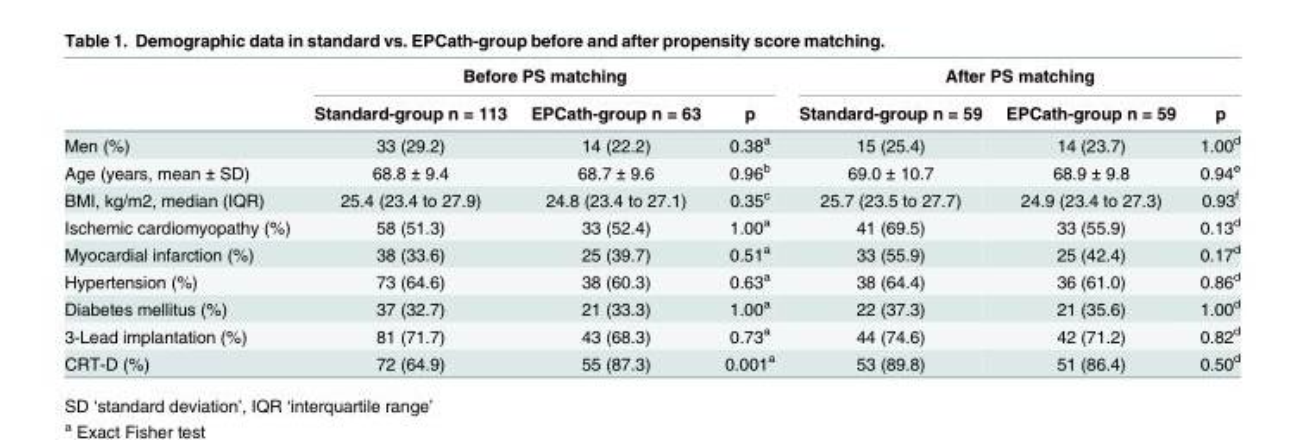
<table><thead><tr><td rowspan="2"></td><td colspan="3">Before PS matching</td><td colspan="3">After PS matching</td></tr><tr><td>Standard-group n = 113</td><td>EPCath-group n = 63</td><td>p</td><td>Standard-group n = 59</td><td>EPCath-group n = 59</td><td>p</td></tr></thead><tbody><tr><td>Men (%)</td><td>33 (29.2)</td><td>14 (22.2)</td><td>0.38<sup>a</sup></td><td>15 (25.4)</td><td>14 (23.7)</td><td>1.00<sup>d</sup></td></tr><tr><td>Age (years, mean ± SD)</td><td>68.8 ± 9.4</td><td>68.7 ± 9.6</td><td>0.96<sup>b</sup></td><td>69.0 ± 10.7</td><td>68.9 ± 9.8</td><td>0.94<sup>e</sup></td></tr><tr><td>BMI, kg/m2, median (IQR)</td><td>25.4 (23.4 to 27.9)</td><td>24.8 (23.4 to 27.1)</td><td>0.35<sup>c</sup></td><td>25.7 (23.5 to 27.7)</td><td>24.9 (23.4 to 27.3)</td><td>0.93<sup>f</sup></td></tr><tr><td>Ischemic cardiomyopathy (%)</td><td>58 (51.3)</td><td>33 (52.4)</td><td>1.00<sup>a</sup></td><td>41 (69.5)</td><td>33 (55.9)</td><td>0.13<sup>d</sup></td></tr><tr><td>Myocardial infarction (%)</td><td>38 (33.6)</td><td>25 (39.7)</td><td>0.51<sup>a</sup></td><td>33 (55.9)</td><td>25 (42.4)</td><td>0.17<sup>d</sup></td></tr><tr><td>Hypertension (%)</td><td>73 (64.6)</td><td>38 (60.3)</td><td>0.63<sup>a</sup></td><td>38 (64.4)</td><td>36 (61.0)</td><td>0.86<sup>d</sup></td></tr><tr><td>Diabetes mellitus (%)</td><td>37 (32.7)</td><td>21 (33.3)</td><td>1.00<sup>a</sup></td><td>22 (37.3)</td><td>21 (35.6)</td><td>1.00<sup>d</sup></td></tr><tr><td>3-Lead implantation (%)</td><td>81 (71.7)</td><td>43 (68.3)</td><td>0.73<sup>a</sup></td><td>44 (74.6)</td><td>42 (71.2)</td><td>0.82<sup>d</sup></td></tr><tr><td>CRT-D (%)</td><td>72 (64.9)</td><td>55 (87.3)</td><td>0.001<sup>a</sup></td><td>53 (89.8)</td><td>51 (86.4)</td><td>0.50<sup>d</sup></td></tr></tbody></table>